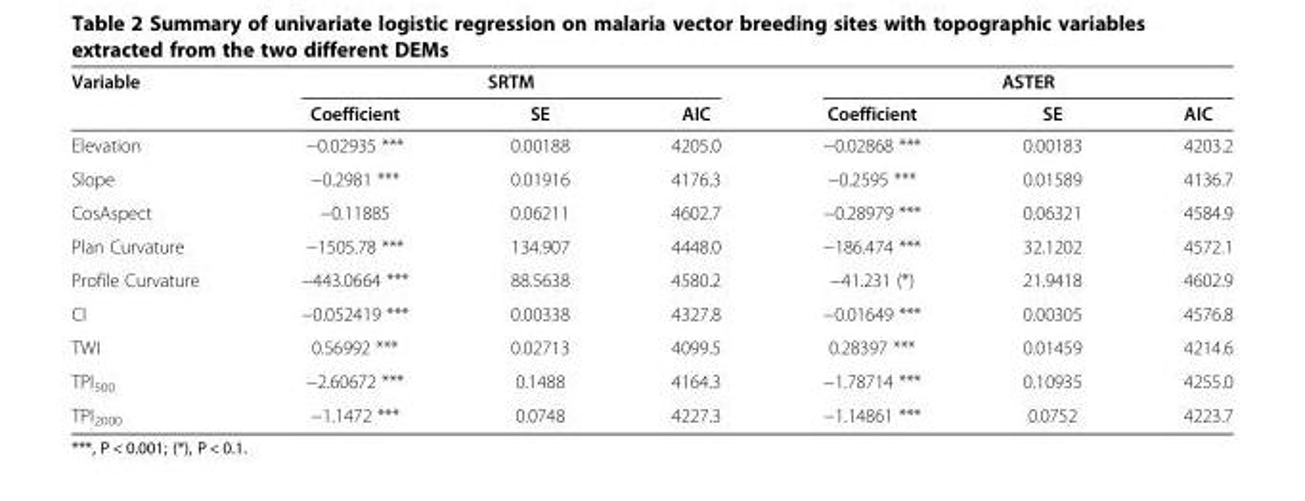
<table><thead><tr><td rowspan="2">Variable</td><td colspan="3">SRTM</td><td colspan="3">ASTER</td></tr><tr><td>Coefficient</td><td>SE</td><td>AIC</td><td>Coefficient</td><td>SE</td><td>AIC</td></tr></thead><tbody><tr><td>Elevation</td><td>−0.02935 ***</td><td>0.00188</td><td>4205.0</td><td>−0.02868 ***</td><td>0.00183</td><td>4203.2</td></tr><tr><td>Slope</td><td>−0.2981 ***</td><td>0.01916</td><td>4176.3</td><td>−0.2595 ***</td><td>0.01589</td><td>4136.7</td></tr><tr><td>CosAspect</td><td>−0.11885</td><td>0.06211</td><td>4602.7</td><td>−0.28979 ***</td><td>0.06321</td><td>4584.9</td></tr><tr><td>Plan Curvature</td><td>−1505.78 ***</td><td>134.907</td><td>4448.0</td><td>−186.474 ***</td><td>32.1202</td><td>4572.1</td></tr><tr><td>Profile Curvature</td><td>−443.0664 ***</td><td>88.5638</td><td>4580.2</td><td>−41.231 (*)</td><td>21.9418</td><td>4602.9</td></tr><tr><td>CI</td><td>−0.052419 ***</td><td>0.00338</td><td>4327.8</td><td>−0.01649 ***</td><td>0.00305</td><td>4576.8</td></tr><tr><td>TWI</td><td>0.56992 ***</td><td>0.02713</td><td>4099.5</td><td>0.28397 ***</td><td>0.01459</td><td>4214.6</td></tr><tr><td>TPI<sub>500</sub></td><td>−2.60672 ***</td><td>0.1488</td><td>4164.3</td><td>−1.78714 ***</td><td>0.10935</td><td>4255.0</td></tr><tr><td>TPI<sub>2000</sub></td><td>−1.1472 ***</td><td>0.0748</td><td>4227.3</td><td>−1.14861 ***</td><td>0.0752</td><td>4223.7</td></tr></tbody></table>